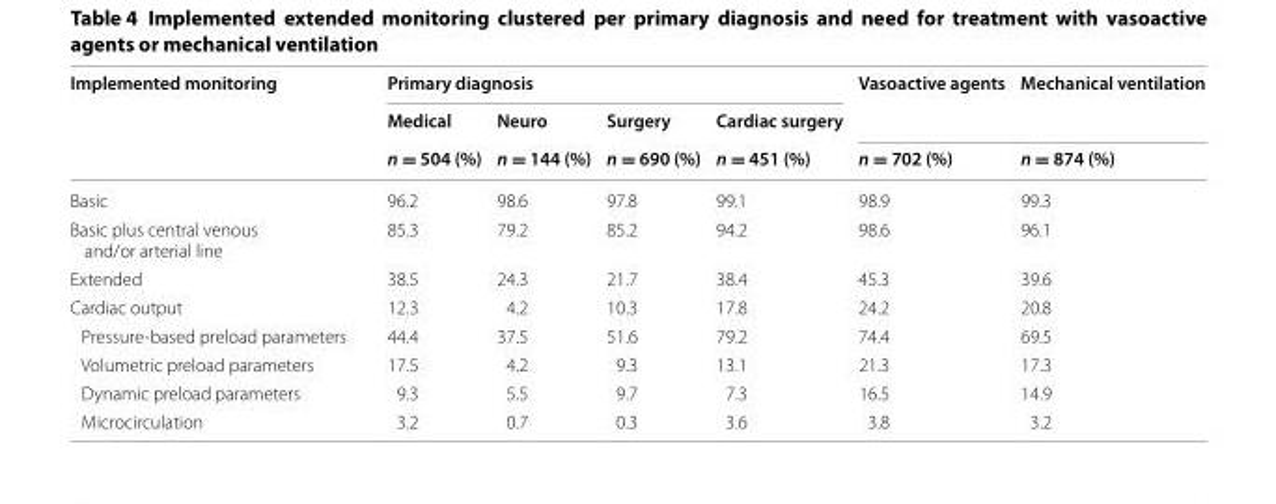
<table><thead><tr><td rowspan="3">Implemented monitoring</td><td colspan="4">Primary diagnosis</td><td rowspan="3">Vasoactive agents n = 702 (%)</td><td rowspan="3">Mechanical ventilation n = 874 (%)</td></tr><tr><td rowspan="2">Medical n = 504 (%)</td><td rowspan="2">Neuro n = 144 (%)</td><td rowspan="2">Surgery n = 690 (%)</td><td rowspan="2">Cardiac surgery n = 451 (%)</td></tr><tr></tr></thead><tbody><tr><td>Basic</td><td>96.2</td><td>98.6</td><td>97.8</td><td>99.1</td><td>98.9</td><td>99.3</td></tr><tr><td>Basic plus central venous and/or arterial line</td><td>85.3</td><td>79.2</td><td>85.2</td><td>94.2</td><td>98.6</td><td>96.1</td></tr><tr><td>Extended</td><td>38.5</td><td>24.3</td><td>21.7</td><td>38.4</td><td>45.3</td><td>39.6</td></tr><tr><td>Cardiac output</td><td>12.3</td><td>4.2</td><td>10.3</td><td>17.8</td><td>24.2</td><td>20.8</td></tr><tr><td>Pressure-based preload parameters</td><td>44.4</td><td>37.5</td><td>51.6</td><td>79.2</td><td>74.4</td><td>69.5</td></tr><tr><td>Volumetric preload parameters</td><td>17.5</td><td>4.2</td><td>9.3</td><td>13.1</td><td>21.3</td><td>17.3</td></tr><tr><td>Dynamic preload parameters</td><td>9.3</td><td>5.5</td><td>9.7</td><td>7.3</td><td>16.5</td><td>14.9</td></tr><tr><td>Microcirculation</td><td>3.2</td><td>0.7</td><td>0.3</td><td>3.6</td><td>3.8</td><td>3.2</td></tr></tbody></table>